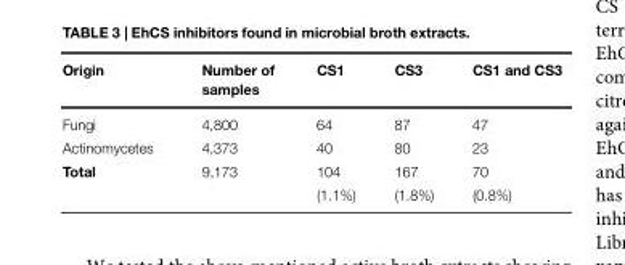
<table><thead><tr><td>Origin</td><td>Number of samples</td><td>CS1</td><td>CS3</td><td>CS1 and CS3</td></tr></thead><tbody><tr><td>Fungi</td><td>4,800</td><td>64</td><td>87</td><td>47</td></tr><tr><td>Actinomycetes</td><td>4,373</td><td>40</td><td>80</td><td>23</td></tr><tr><td rowspan="2">Total</td><td>9,173</td><td>104</td><td>167</td><td>70</td></tr><tr><td></td><td>(1.1%)</td><td>(1.8%)</td><td>(0.8%)</td></tr></tbody></table>